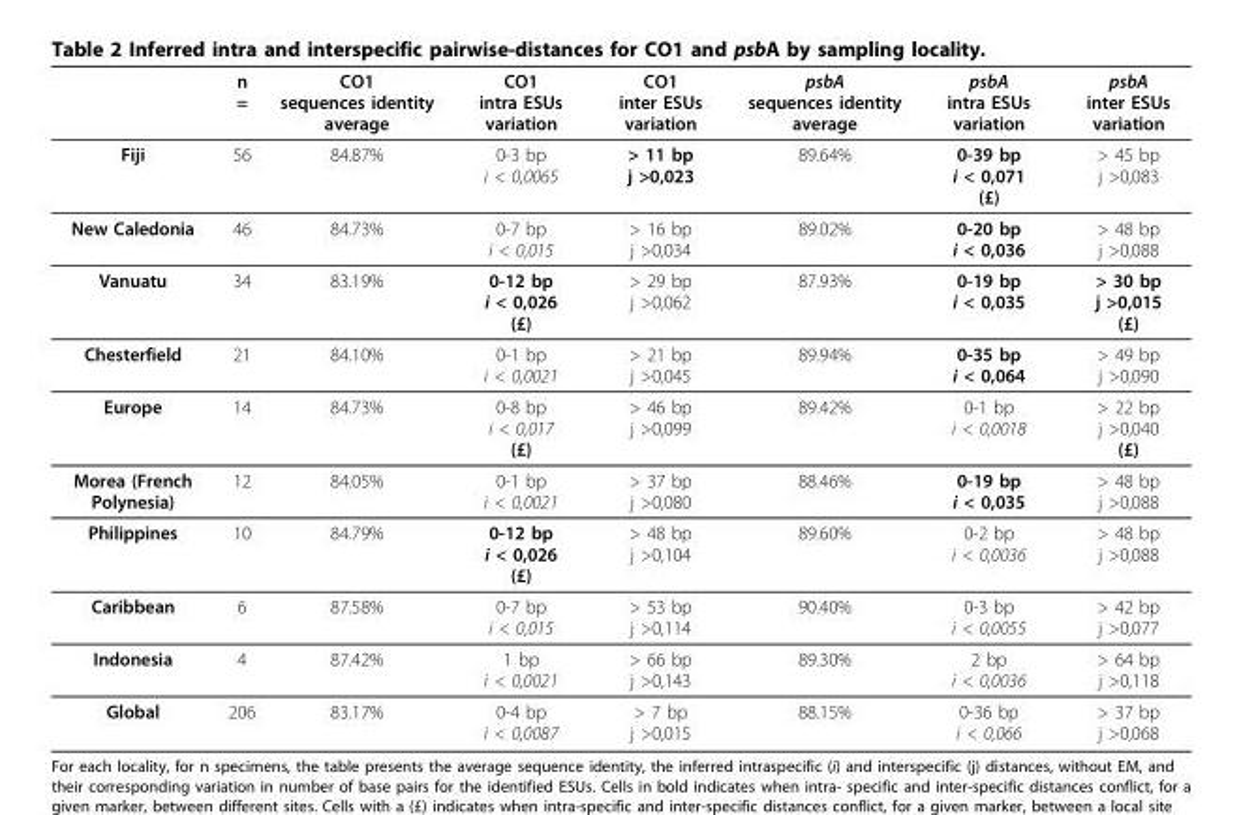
<table><thead><tr><td></td><td>n =</td><td>CO1 sequences identity average</td><td>CO1 intra ESUs variation</td><td>CO1 inter ESUs variation</td><td>psbA sequences identity average</td><td>psbA intra ESUs variation</td><td>psbA inter ESUs variation</td></tr></thead><tbody><tr><td>Fiji</td><td>56</td><td>84.87%</td><td>0-3 bp i &lt; 0,0065</td><td>&gt; 11 bp j &gt;0,023</td><td>89.64%</td><td>0-39 bp i &lt; 0,071 (£)</td><td>&gt; 45 bp j &gt;0,083</td></tr><tr><td>New Caledonia</td><td>46</td><td>84.73%</td><td>0-7 bp i &lt; 0,015</td><td>&gt; 16 bp j &gt;0,034</td><td>89.02%</td><td>0-20 bp i &lt; 0,036</td><td>&gt; 48 bp j &gt;0,088</td></tr><tr><td>Vanuatu</td><td>34</td><td>83.19%</td><td>0-12 bp i &lt; 0,026 (£)</td><td>&gt; 29 bp j &gt;0,062</td><td>87.93%</td><td>0-19 bp i &lt; 0,035</td><td>&gt; 30 bp j &gt;0,015 (£)</td></tr><tr><td>Chesterfield</td><td>21</td><td>84.10%</td><td>0-1 bp i &lt; 0,0021</td><td>&gt; 21 bp j &gt;0,045</td><td>89.94%</td><td>0-35 bp i &lt; 0,064</td><td>&gt; 49 bp j &gt;0,090</td></tr><tr><td>Europe</td><td>14</td><td>84.73%</td><td>0-8 bp i &lt; 0,017 (£)</td><td>&gt; 46 bp j &gt;0,099</td><td>89.42%</td><td>0-1 bp i &lt; 0,0018</td><td>&gt; 22 bp j &gt;0,040 (£)</td></tr><tr><td>Morea (French Polynesia)</td><td>12</td><td>84.05%</td><td>0-1 bp i &lt; 0,0021</td><td>&gt; 37 bp j &gt;0,080</td><td>88.46%</td><td>0-19 bp i &lt; 0,035</td><td>&gt; 48 bp j &gt;0,088</td></tr><tr><td>Philippines</td><td>10</td><td>84.79%</td><td>0-12 bp i &lt; 0,026 (£)</td><td>&gt; 48 bp j &gt;0,104</td><td>89.60%</td><td>0-2 bp i &lt; 0,0036</td><td>&gt; 48 bp j &gt;0,088</td></tr><tr><td>Caribbean</td><td>6</td><td>87.58%</td><td>0-7 bp i &lt; 0,015</td><td>&gt; 53 bp j &gt;0,114</td><td>90.40%</td><td>0-3 bp i &lt; 0,0055</td><td>&gt; 42 bp j &gt;0,077</td></tr><tr><td>Indonesia</td><td>4</td><td>87.42%</td><td>1 bp i &lt; 0,0021</td><td>&gt; 66 bp j &gt;0,143</td><td>89.30%</td><td>2 bp i &lt; 0,0036</td><td>&gt; 64 bp j &gt;0,118</td></tr><tr><td>Global</td><td>206</td><td>83.17%</td><td>0-4 bp i &lt; 0,0087</td><td>&gt; 7 bp j &gt;0,015</td><td>88.15%</td><td>0-36 bp i &lt; 0,066</td><td>&gt; 37 bp j &gt;0,068</td></tr></tbody></table>